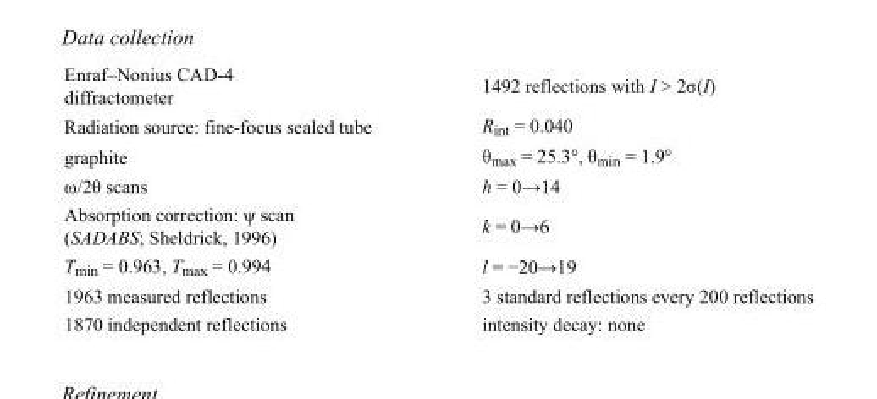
<table><tbody><tr><td>Enraf–Nonius CAD-4 diffractometer</td><td>1492 reflections with I &gt; 2σ(I)</td></tr><tr><td>Radiation source: fine-focus sealed tube</td><td>R<sub>int</sub> = 0.040</td></tr><tr><td>graphite</td><td>θ<sub>max</sub> = 25.3°, θ<sub>min</sub> = 1.9°</td></tr><tr><td>ω/2θ scans</td><td>h = 0→14</td></tr><tr><td>Absorption correction: ψ scan (SADABS; Sheldrick, 1996)</td><td>k = 0→6</td></tr><tr><td>T<sub>min</sub> = 0.963, T<sub>max</sub> = 0.994</td><td>l = −20→19</td></tr><tr><td>1963 measured reflections</td><td>3 standard reflections every 200 reflections</td></tr><tr><td>1870 independent reflections</td><td>intensity decay: none</td></tr></tbody></table>